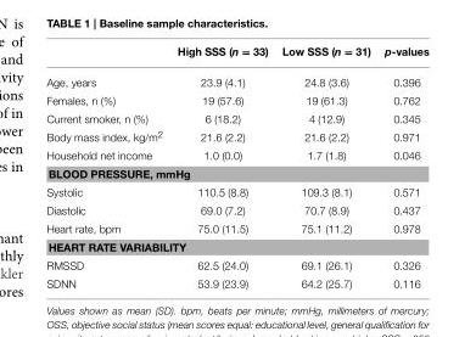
<table><thead><tr><td></td><td>High SSS (n = 33)</td><td>Low SSS (n = 31)</td><td>p-values</td></tr></thead><tbody><tr><td>Age, years</td><td>23.9 (4.1)</td><td>24.8 (3.6)</td><td>0.396</td></tr><tr><td>Females, n (%)</td><td>19 (57.6)</td><td>19 (61.3)</td><td>0.762</td></tr><tr><td>Current smoker, n (%)</td><td>6 (18.2)</td><td>4 (12.9)</td><td>0.345</td></tr><tr><td>Body mass index, kg/m<sup>2</sup></td><td>21.6 (2.2)</td><td>21.6 (2.2)</td><td>0.971</td></tr><tr><td>Household net income</td><td>1.0 (0.0)</td><td>1.7 (1.8)</td><td>0.046</td></tr><tr><td colspan="4">BLOOD PRESSURE, mmHg</td></tr><tr><td>Systolic</td><td>110.5 (8.8)</td><td>109.3 (8.1)</td><td>0.571</td></tr><tr><td>Diastolic</td><td>69.0 (7.2)</td><td>70.7 (8.9)</td><td>0.437</td></tr><tr><td>Heart rate, bpm</td><td>75.0 (11.5)</td><td>75.1 (11.2)</td><td>0.978</td></tr><tr><td colspan="4">HEART RATE VARIABILITY</td></tr><tr><td>RMSSD</td><td>62.5 (24.0)</td><td>69.1 (26.1)</td><td>0.326</td></tr><tr><td>SDNN</td><td>53.9 (23.9)</td><td>64.2 (25.7)</td><td>0.116</td></tr></tbody></table>